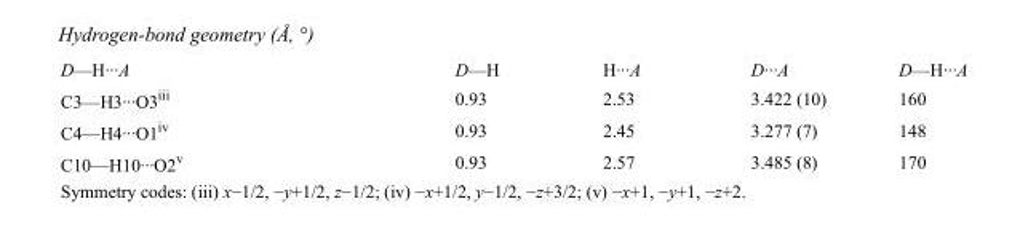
<table><tbody><tr><td>D—H···A</td><td>D—H</td><td>H···A</td><td>D···A</td><td>D—H···A</td></tr><tr><td>C3—H3···O3<sup>iii</sup></td><td>0.93</td><td>2.53</td><td>3.422 (10)</td><td>160</td></tr><tr><td>C4—H4···O1<sup>iv</sup></td><td>0.93</td><td>2.45</td><td>3.277 (7)</td><td>148</td></tr><tr><td>C10—H10···O2<sup>v</sup></td><td>0.93</td><td>2.57</td><td>3.485 (8)</td><td>170</td></tr></tbody></table>